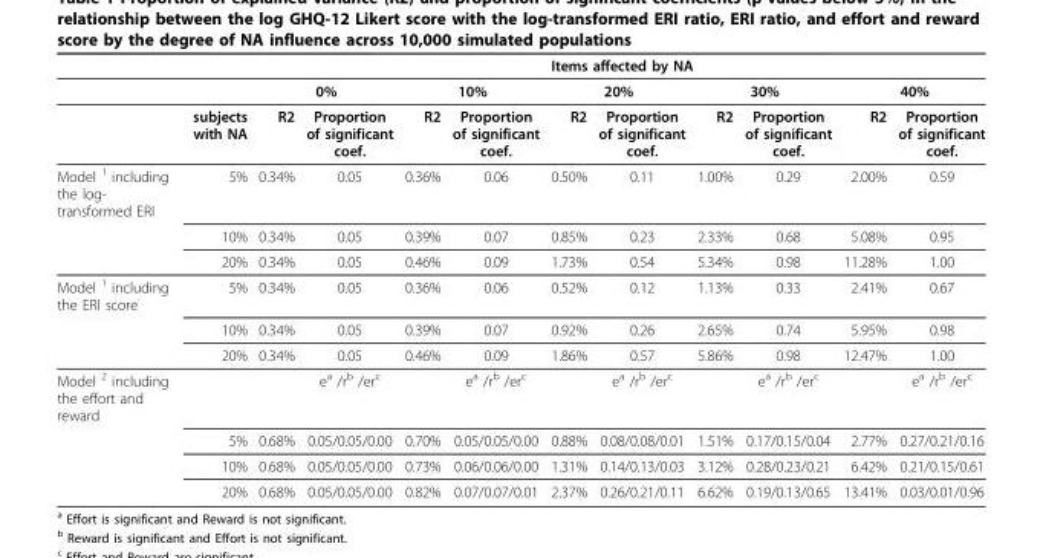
<table><thead><tr><td rowspan="3"></td><td rowspan="3">subjects with NA</td><td colspan="10">Items affected by NA</td></tr><tr><td colspan="2">0%</td><td colspan="2">10%</td><td colspan="2">20%</td><td colspan="2">30%</td><td colspan="2">40%</td></tr><tr><td>R2</td><td>Proportion of significant coef.</td><td>R2</td><td>Proportion of significant coef.</td><td>R2</td><td>Proportion of significant coef.</td><td>R2</td><td>Proportion of significant coef.</td><td>R2</td><td>Proportion of significant coef.</td></tr></thead><tbody><tr><td rowspan="3">Model <sup>1</sup> including the log- transformed ERI</td><td>5%</td><td>0.34%</td><td>0.05</td><td>0.36%</td><td>0.06</td><td>0.50%</td><td>0.11</td><td>1.00%</td><td>0.29</td><td>2.00%</td><td>0.59</td></tr><tr><td>10%</td><td>0.34%</td><td>0.05</td><td>0.39%</td><td>0.07</td><td>0.85%</td><td>0.23</td><td>2.33%</td><td>0.68</td><td>5.08%</td><td>0.95</td></tr><tr><td>20%</td><td>0.34%</td><td>0.05</td><td>0.46%</td><td>0.09</td><td>1.73%</td><td>0.54</td><td>5.34%</td><td>0.98</td><td>11.28%</td><td>1.00</td></tr><tr><td rowspan="3">Model <sup>1</sup> including the ERI score</td><td>5%</td><td>0.34%</td><td>0.05</td><td>0.36%</td><td>0.06</td><td>0.52%</td><td>0.12</td><td>1.13%</td><td>0.33</td><td>2.41%</td><td>0.67</td></tr><tr><td>10%</td><td>0.34%</td><td>0.05</td><td>0.39%</td><td>0.07</td><td>0.92%</td><td>0.26</td><td>2.65%</td><td>0.74</td><td>5.95%</td><td>0.98</td></tr><tr><td>20%</td><td>0.34%</td><td>0.05</td><td>0.46%</td><td>0.09</td><td>1.86%</td><td>0.57</td><td>5.86%</td><td>0.98</td><td>12.47%</td><td>1.00</td></tr><tr><td rowspan="4">Model <sup>2</sup> including the effort and reward</td><td></td><td></td><td>e<sup>a</sup> /r<sup>b</sup> /er<sup>c</sup></td><td></td><td>e<sup>a</sup> /r<sup>b</sup> /er<sup>c</sup></td><td></td><td>e<sup>a</sup> /r<sup>b</sup> /er<sup>c</sup></td><td></td><td>e<sup>a</sup> /r<sup>b</sup> /er<sup>c</sup></td><td></td><td>e<sup>a</sup> /r<sup>b</sup> /er<sup>c</sup></td></tr><tr><td>5%</td><td>0.68%</td><td>0.05/0.05/0.00</td><td>0.70%</td><td>0.05/0.05/0.00</td><td>0.88%</td><td>0.08/0.08/0.01</td><td>1.51%</td><td>0.17/0.15/0.04</td><td>2.77%</td><td>0.27/0.21/0.16</td></tr><tr><td>10%</td><td>0.68%</td><td>0.05/0.05/0.00</td><td>0.73%</td><td>0.06/0.06/0.00</td><td>1.31%</td><td>0.14/0.13/0.03</td><td>3.12%</td><td>0.28/0.23/0.21</td><td>6.42%</td><td>0.21/0.15/0.61</td></tr><tr><td>20%</td><td>0.68%</td><td>0.05/0.05/0.00</td><td>0.82%</td><td>0.07/0.07/0.01</td><td>2.37%</td><td>0.26/0.21/0.11</td><td>6.62%</td><td>0.19/0.13/0.65</td><td>13.41%</td><td>0.03/0.01/0.96</td></tr></tbody></table>